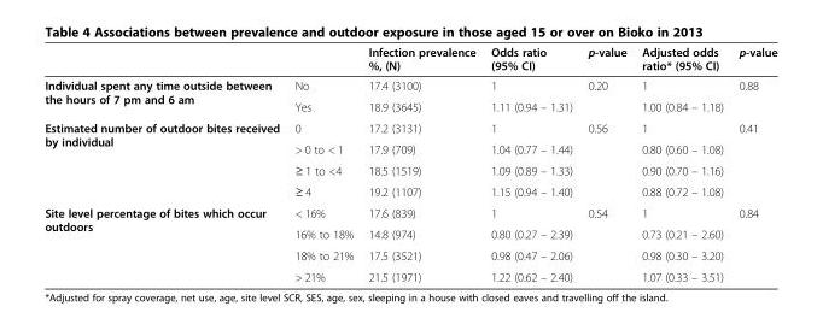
<table><thead><tr><td></td><td></td><td>Infection prevalence %, (N)</td><td>Odds ratio (95% CI)</td><td>p-value</td><td>Adjusted odds ratio* (95% CI)</td><td>p-value</td></tr></thead><tbody><tr><td rowspan="2">Individual spent any time outside between the hours of 7 pm and 6 am</td><td>No</td><td>17.4 (3100)</td><td>1</td><td rowspan="2">0.20</td><td>1</td><td rowspan="2">0.88</td></tr><tr><td>Yes</td><td>18.9 (3645)</td><td>1.11 (0.94 – 1.31)</td><td>1.00 (0.84 – 1.18)</td></tr><tr><td rowspan="4">Estimated number of outdoor bites received by individual</td><td>0</td><td>17.2 (3131)</td><td>1</td><td rowspan="4">0.56</td><td>1</td><td rowspan="4">0.41</td></tr><tr><td>&gt; 0 to &lt; 1</td><td>17.9 (709)</td><td>1.04 (0.77 – 1.44)</td><td>0.80 (0.60 – 1.08)</td></tr><tr><td>≥ 1 to &lt;4</td><td>18.5 (1519)</td><td>1.09 (0.89 – 1.33)</td><td>0.90 (0.70 – 1.16)</td></tr><tr><td>≥ 4</td><td>19.2 (1107)</td><td>1.15 (0.94 – 1.40)</td><td>0.88 (0.72 – 1.08)</td></tr><tr><td rowspan="4">Site level percentage of bites which occur outdoors</td><td>&lt; 16%</td><td>17.6 (839)</td><td>1</td><td rowspan="4">0.54</td><td>1</td><td rowspan="4">0.84</td></tr><tr><td>16% to 18%</td><td>14.8 (974)</td><td>0.80 (0.27 – 2.39)</td><td>0.73 (0.21 – 2.60)</td></tr><tr><td>18% to 21%</td><td>17.5 (3521)</td><td>0.98 (0.47 – 2.06)</td><td>0.98 (0.30 – 3.20)</td></tr><tr><td>&gt; 21%</td><td>21.5 (1971)</td><td>1.22 (0.62 – 2.40)</td><td>1.07 (0.33 – 3.51)</td></tr></tbody></table>